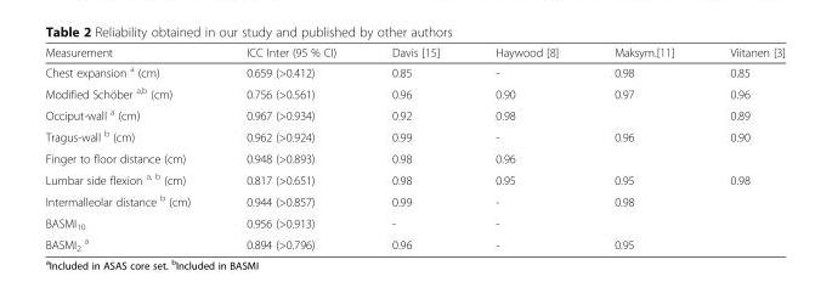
<table><thead><tr><td>Measurement</td><td>ICC Inter (95 % CI)</td><td>Davis [15]</td><td>Haywood [8]</td><td>Maksym.[11]</td><td>Viitanen [3]</td></tr></thead><tbody><tr><td>Chest expansion <sup>a</sup> (cm)</td><td>0.659 (&gt;0.412)</td><td>0.85</td><td>-</td><td>0.98</td><td>0.85</td></tr><tr><td>Modified Schöber <sup>a,b</sup> (cm)</td><td>0.756 (&gt;0.561)</td><td>0.96</td><td>0.90</td><td>0.97</td><td>0.96</td></tr><tr><td>Occiput-wall <sup>a</sup> (cm)</td><td>0.967 (&gt;0.934)</td><td>0.92</td><td>0.98</td><td></td><td>0.89</td></tr><tr><td>Tragus-wall <sup>b</sup> (cm)</td><td>0.962 (&gt;0.924)</td><td>0.99</td><td>-</td><td>0.96</td><td>0.90</td></tr><tr><td>Finger to floor distance (cm)</td><td>0.948 (&gt;0.893)</td><td>0.98</td><td>0.96</td><td></td><td></td></tr><tr><td>Lumbar side flexion <sup>a, b</sup> (cm)</td><td>0.817 (&gt;0.651)</td><td>0.98</td><td>0.95</td><td>0.95</td><td>0.98</td></tr><tr><td>Intermalleolar distance <sup>b</sup> (cm)</td><td>0.944 (&gt;0.857)</td><td>0.99</td><td>-</td><td>0.98</td><td></td></tr><tr><td>BASMI<sub>10</sub></td><td>0.956 (&gt;0.913)</td><td>-</td><td>-</td><td></td><td></td></tr><tr><td>BASMI<sub>2</sub> <sup>a</sup></td><td>0.894 (&gt;0.796)</td><td>0.96</td><td>-</td><td>0.95</td><td></td></tr></tbody></table>